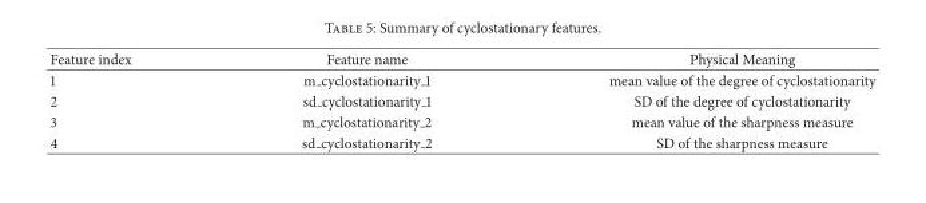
<table><thead><tr><td>Feature index</td><td>Feature name</td><td>Physical Meaning</td></tr></thead><tbody><tr><td>1</td><td>m <sub>cyclostationarity</sub> 1</td><td>mean value of the degree of cyclostationarity</td></tr><tr><td>2</td><td>sd <sub>cyclostationarity</sub> 1</td><td>SD of the degree of cyclostationarity</td></tr><tr><td>3</td><td>m <sub>cyclostationarity</sub> 2</td><td>mean value of the sharpness measure</td></tr><tr><td>4</td><td>sd <sub>cyclostationarity</sub> 2</td><td>SD of the sharpness measure</td></tr></tbody></table>